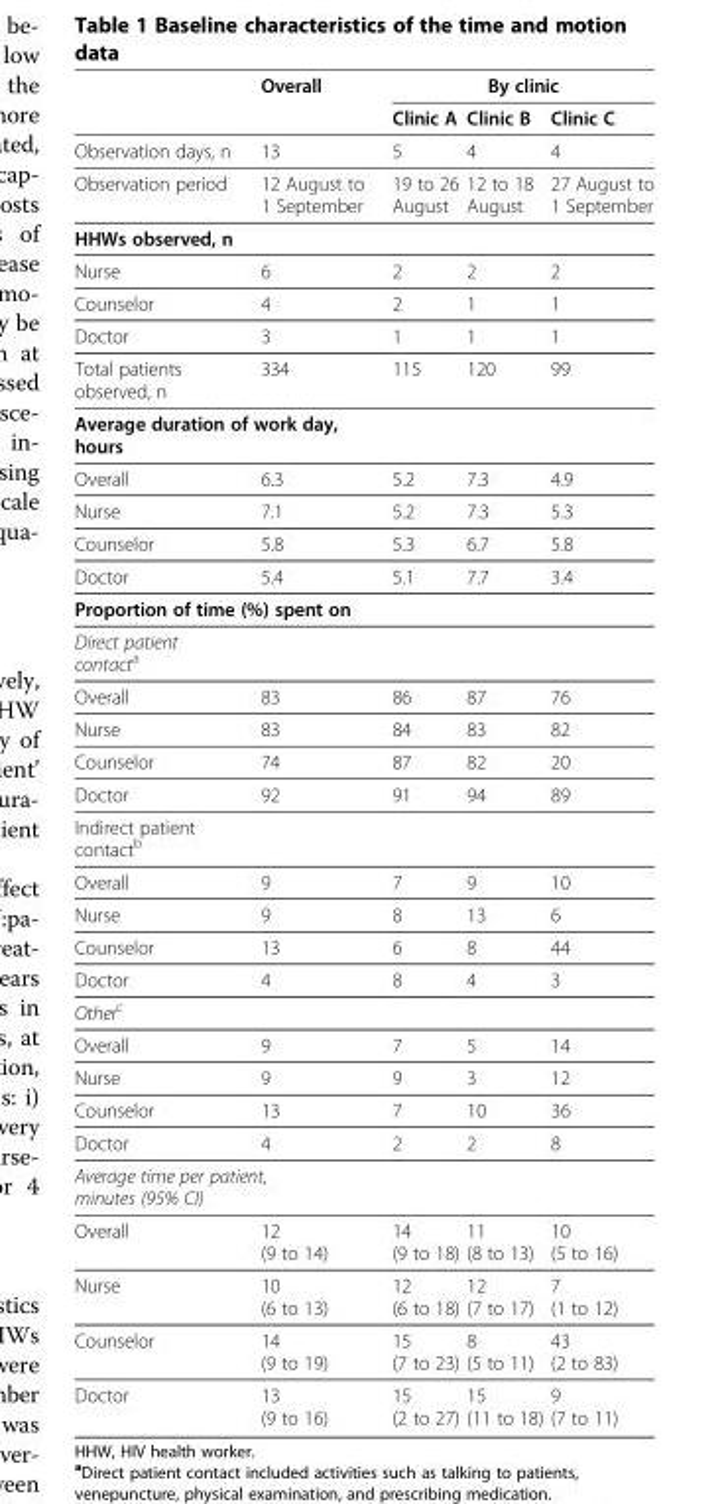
<table><thead><tr><td rowspan="2"></td><td rowspan="2">Overall</td><td colspan="3">By clinic</td></tr><tr><td>Clinic A</td><td>Clinic B</td><td>Clinic C</td></tr></thead><tbody><tr><td>Observation days, n</td><td>13</td><td>5</td><td>4</td><td>4</td></tr><tr><td>Observation period</td><td>12 August to 1 September</td><td>19 to 26 August</td><td>12 to 18 August</td><td>27 August to 1 September</td></tr><tr><td colspan="5">HHWs observed, n</td></tr><tr><td>Nurse</td><td>6</td><td>2</td><td>2</td><td>2</td></tr><tr><td>Counselor</td><td>4</td><td>2</td><td>1</td><td>1</td></tr><tr><td>Doctor</td><td>3</td><td>1</td><td>1</td><td>1</td></tr><tr><td>Total patients observed, n</td><td>334</td><td>115</td><td>120</td><td>99</td></tr><tr><td colspan="5">Average duration of work day, hours</td></tr><tr><td>Overall</td><td>6.3</td><td>5.2</td><td>7.3</td><td>4.9</td></tr><tr><td>Nurse</td><td>7.1</td><td>5.2</td><td>7.3</td><td>5.3</td></tr><tr><td>Counselor</td><td>5.8</td><td>5.3</td><td>6.7</td><td>5.8</td></tr><tr><td>Doctor</td><td>5.4</td><td>5.1</td><td>7.7</td><td>3.4</td></tr><tr><td colspan="5">Proportion of time (%) spent on</td></tr><tr><td colspan="5">Direct patient contact<sup>a</sup></td></tr><tr><td>Overall</td><td>83</td><td>86</td><td>87</td><td>76</td></tr><tr><td>Nurse</td><td>83</td><td>84</td><td>83</td><td>82</td></tr><tr><td>Counselor</td><td>74</td><td>87</td><td>82</td><td>20</td></tr><tr><td>Doctor</td><td>92</td><td>91</td><td>94</td><td>89</td></tr><tr><td colspan="5">Indirect patient contact<sup>b</sup></td></tr><tr><td>Overall</td><td>9</td><td>7</td><td>9</td><td>10</td></tr><tr><td>Nurse</td><td>9</td><td>8</td><td>13</td><td>6</td></tr><tr><td>Counselor</td><td>13</td><td>6</td><td>8</td><td>44</td></tr><tr><td>Doctor</td><td>4</td><td>8</td><td>4</td><td>3</td></tr><tr><td colspan="5">Other<sup>c</sup></td></tr><tr><td>Overall</td><td>9</td><td>7</td><td>5</td><td>14</td></tr><tr><td>Nurse</td><td>9</td><td>9</td><td>3</td><td>12</td></tr><tr><td>Counselor</td><td>13</td><td>7</td><td>10</td><td>36</td></tr><tr><td>Doctor</td><td>4</td><td>2</td><td>2</td><td>8</td></tr><tr><td colspan="5">Average time per patient, minutes (95% CI)</td></tr><tr><td>Overall</td><td>12 (9 to 14)</td><td>14 (9 to 18)</td><td>11 (8 to 13)</td><td>10 (5 to 16)</td></tr><tr><td>Nurse</td><td>10 (6 to 13)</td><td>12 (6 to 18)</td><td>12 (7 to 17)</td><td>7 (1 to 12)</td></tr><tr><td>Counselor</td><td>14 (9 to 19)</td><td>15 (7 to 23)</td><td>8 (5 to 11)</td><td>43 (2 to 83)</td></tr><tr><td>Doctor</td><td>13 (9 to 16)</td><td>15 (2 to 27)</td><td>15 (11 to 18)</td><td>9 (7 to 11)</td></tr></tbody></table>